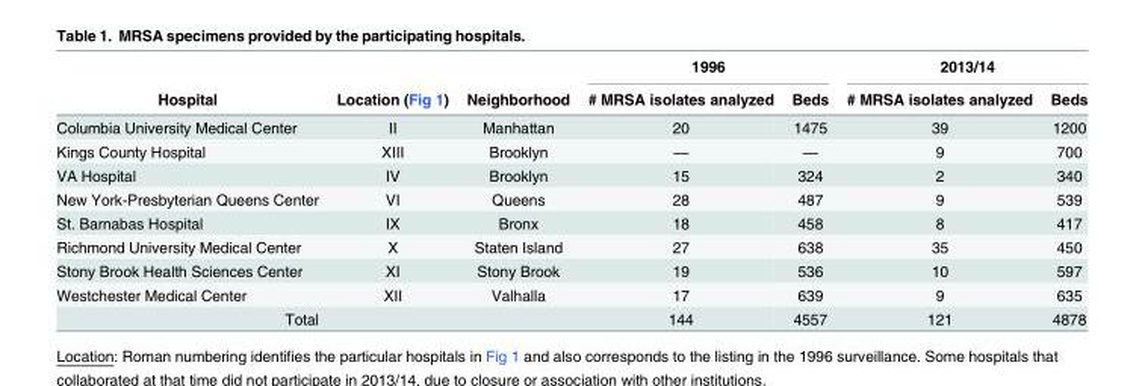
<table><thead><tr><td rowspan="2">Hospital</td><td rowspan="2">Location (Fig 1)</td><td rowspan="2">Neighborhood</td><td colspan="2">1996</td><td colspan="2">2013/14</td></tr><tr><td># MRSA isolates analyzed</td><td>Beds</td><td># MRSA isolates analyzed</td><td>Beds</td></tr></thead><tbody><tr><td>Columbia University Medical Center</td><td>II</td><td>Manhattan</td><td>20</td><td>1475</td><td>39</td><td>1200</td></tr><tr><td>Kings County Hospital</td><td>XIII</td><td>Brooklyn</td><td>—</td><td>—</td><td>9</td><td>700</td></tr><tr><td>VA Hospital</td><td>IV</td><td>Brooklyn</td><td>15</td><td>324</td><td>2</td><td>340</td></tr><tr><td>New York-Presbyterian Queens Center</td><td>VI</td><td>Queens</td><td>28</td><td>487</td><td>9</td><td>539</td></tr><tr><td>St. Barnabas Hospital</td><td>IX</td><td>Bronx</td><td>18</td><td>458</td><td>8</td><td>417</td></tr><tr><td>Richmond University Medical Center</td><td>X</td><td>Staten Island</td><td>27</td><td>638</td><td>35</td><td>450</td></tr><tr><td>Stony Brook Health Sciences Center</td><td>XI</td><td>Stony Brook</td><td>19</td><td>536</td><td>10</td><td>597</td></tr><tr><td>Westchester Medical Center</td><td>XII</td><td>Valhalla</td><td>17</td><td>639</td><td>9</td><td>635</td></tr><tr><td>Total</td><td></td><td></td><td>144</td><td>4557</td><td>121</td><td>4878</td></tr></tbody></table>